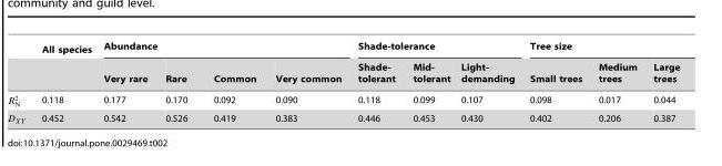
<table><thead><tr><td rowspan="2">All species</td><td colspan="4">Abundance</td><td colspan="3">Shade-tolerance</td><td colspan="3">Tree size</td></tr><tr><td>Very rare</td><td>Rare</td><td>Common</td><td>Very common</td><td>Shade- tolerant</td><td>Mid- tolerant</td><td>Light- demanding</td><td>Small trees</td><td>Medium trees</td><td>Large trees</td></tr></thead><tbody><tr><td>0.118</td><td>0.177</td><td>0.170</td><td>0.092</td><td>0.090</td><td>0.118</td><td>0.099</td><td>0.107</td><td>0.098</td><td>0.017</td><td>0.044</td></tr><tr><td>0.452</td><td>0.542</td><td>0.526</td><td>0.419</td><td>0.383</td><td>0.446</td><td>0.453</td><td>0.430</td><td>0.402</td><td>0.206</td><td>0.387</td></tr></tbody></table>